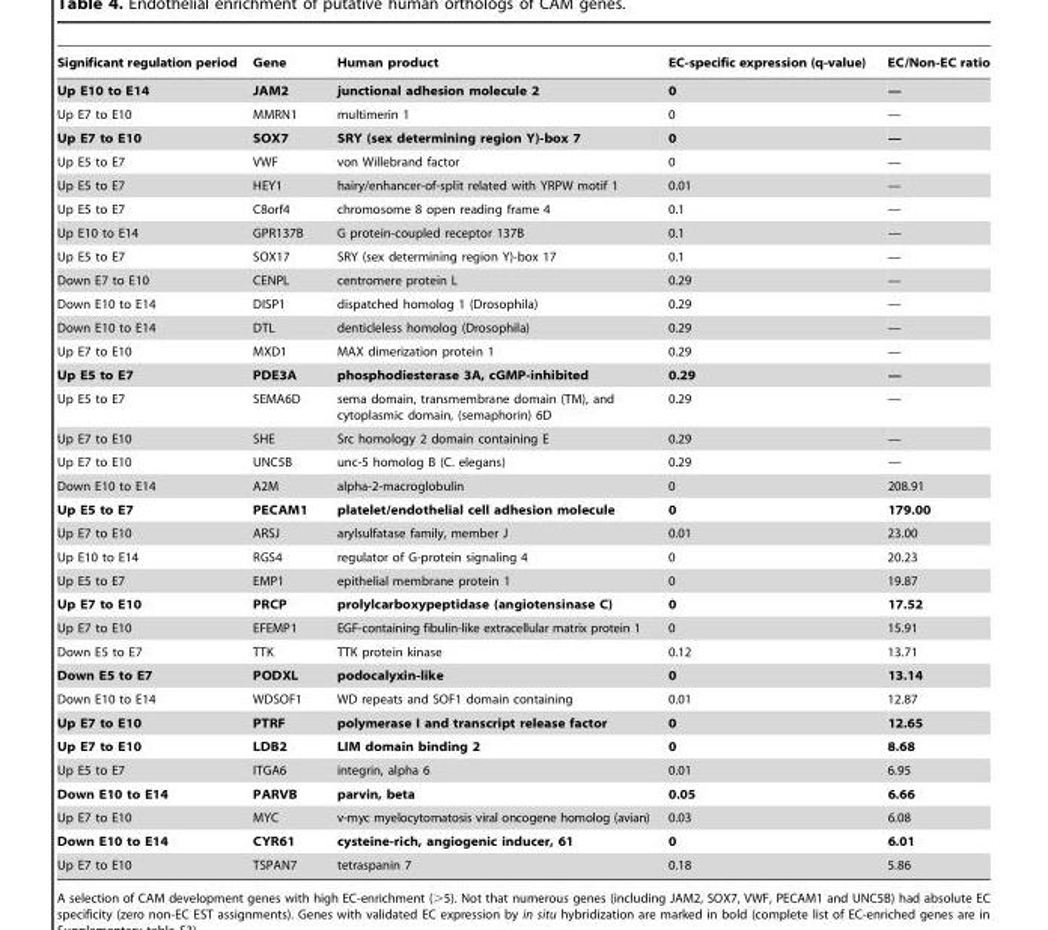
<table><thead><tr><td>Significant regulation period</td><td>Gene</td><td>Human product</td><td>EC-specific expression (q-value)</td><td>EC/Non-EC ratio</td></tr></thead><tbody><tr><td>Up E10 to E14</td><td>JAM2</td><td>junctional adhesion molecule 2</td><td>0</td><td>—</td></tr><tr><td>Up E7 to E10</td><td>MMRN1</td><td>multimerin 1</td><td>0</td><td>—</td></tr><tr><td>Up E7 to E10</td><td>SOX7</td><td>SRY (sex determining region Y)-box 7</td><td>0</td><td>—</td></tr><tr><td>Up E5 to E7</td><td>VWF</td><td>von Willebrand factor</td><td>0</td><td>—</td></tr><tr><td>Up E5 to E7</td><td>HEY1</td><td>hairy/enhancer-of-split related with YRPW motif 1</td><td>0.01</td><td>—</td></tr><tr><td>Up E5 to E7</td><td>C8orf4</td><td>chromosome 8 open reading frame 4</td><td>0.1</td><td>—</td></tr><tr><td>Up E10 to E14</td><td>GPR137B</td><td>G protein-coupled receptor 137B</td><td>0.1</td><td>—</td></tr><tr><td>Up E5 to E7</td><td>SOX17</td><td>SRY (sex determining region Y)-box 17</td><td>0.1</td><td>—</td></tr><tr><td>Down E7 to E10</td><td>CENPL</td><td>centromere protein L</td><td>0.29</td><td>—</td></tr><tr><td>Down E10 to E14</td><td>DISP1</td><td>dispatched homolog 1 (Drosophila)</td><td>0.29</td><td>—</td></tr><tr><td>Down E10 to E14</td><td>DTL</td><td>denticleless homolog (Drosophila)</td><td>0.29</td><td>—</td></tr><tr><td>Up E7 to E10</td><td>MXD1</td><td>MAX dimerization protein 1</td><td>0.29</td><td>—</td></tr><tr><td>Up E5 to E7</td><td>PDE3A</td><td>phosphodiesterase 3A, cGMP-inhibited</td><td>0.29</td><td>—</td></tr><tr><td>Up E5 to E7</td><td>SEMA6D</td><td>sema domain, transmembrane domain (TM), and cytoplasmic domain, (semaphorin) 6D</td><td>0.29</td><td>—</td></tr><tr><td>Up E7 to E10</td><td>SHE</td><td>Src homology 2 domain containing E</td><td>0.29</td><td>—</td></tr><tr><td>Up E7 to E10</td><td>UNC5B</td><td>unc-5 homolog B (C. elegans)</td><td>0.29</td><td>—</td></tr><tr><td>Down E10 to E14</td><td>A2M</td><td>alpha-2-macroglobulin</td><td>0</td><td>208.91</td></tr><tr><td>Up E5 to E7</td><td>PECAM1</td><td>platelet/endothelial cell adhesion molecule</td><td>0</td><td>179.00</td></tr><tr><td>Up E7 to E10</td><td>ARSJ</td><td>arylsulfatase family, member J</td><td>0.01</td><td>23.00</td></tr><tr><td>Up E10 to E14</td><td>RGS4</td><td>regulator of G-protein signaling 4</td><td>0</td><td>20.23</td></tr><tr><td>Up E5 to E7</td><td>EMP1</td><td>epithelial membrane protein 1</td><td>0</td><td>19.87</td></tr><tr><td>Up E7 to E10</td><td>PRCP</td><td>prolylcarboxypeptidase (angiotensinase C)</td><td>0</td><td>17.52</td></tr><tr><td>Up E7 to E10</td><td>EFEMP1</td><td>EGF-containing fibulin-like extracellular matrix protein 1</td><td>0</td><td>15.91</td></tr><tr><td>Down E5 to E7</td><td>TTK</td><td>TTK protein kinase</td><td>0.12</td><td>13.71</td></tr><tr><td>Down E5 to E7</td><td>PODXL</td><td>podocalyxin-like</td><td>0</td><td>13.14</td></tr><tr><td>Down E10 to E14</td><td>WDSOF1</td><td>WD repeats and SOF1 domain containing</td><td>0.01</td><td>12.87</td></tr><tr><td>Up E7 to E10</td><td>PTRF</td><td>polymerase I and transcript release factor</td><td>0</td><td>12.65</td></tr><tr><td>Up E7 to E10</td><td>LDB2</td><td>LIM domain binding 2</td><td>0</td><td>8.68</td></tr><tr><td>Up E5 to E7</td><td>ITGA6</td><td>integrin, alpha 6</td><td>0.01</td><td>6.95</td></tr><tr><td>Down E10 to E14</td><td>PARVB</td><td>parvin, beta</td><td>0.05</td><td>6.66</td></tr><tr><td>Up E7 to E10</td><td>MYC</td><td>v-myc myelocytomatosis viral oncogene homolog (avian)</td><td>0.03</td><td>6.08</td></tr><tr><td>Down E10 to E14</td><td>CYR61</td><td>cysteine-rich, angiogenic inducer, 61</td><td>0</td><td>6.01</td></tr><tr><td>Up E7 to E10</td><td>TSPAN7</td><td>tetraspanin 7</td><td>0.18</td><td>5.86</td></tr></tbody></table>